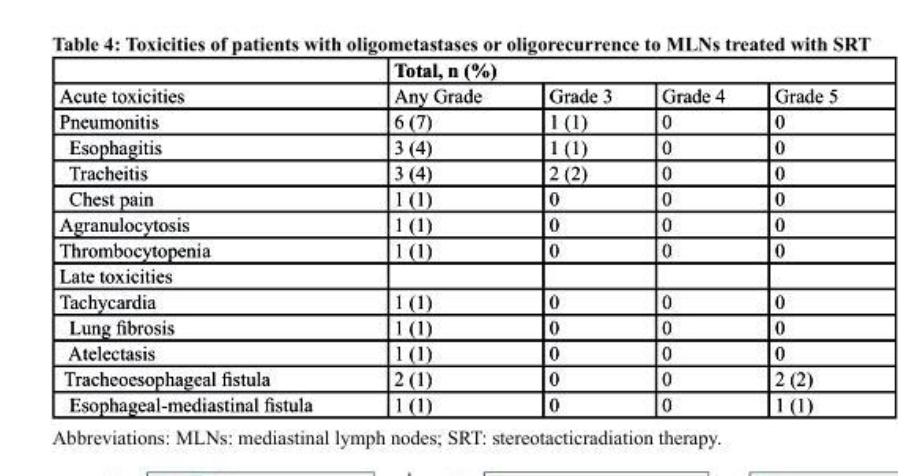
<table><thead><tr><td rowspan="2">Acute toxicities</td><td colspan="4">total, n (%)</td></tr><tr><td>Any Grade</td><td>Grade 3</td><td>Grade 4</td><td>Grade 5</td></tr></thead><tbody><tr><td>Pneumonitis</td><td>6 (7)</td><td>1 (1)</td><td>0</td><td>0</td></tr><tr><td>Esophagitis</td><td>3 (4)</td><td>1 (1)</td><td>0</td><td>0</td></tr><tr><td>Tracheitis</td><td>3 (4)</td><td>2 (2)</td><td>0</td><td>0</td></tr><tr><td>Chest pain</td><td>1 (1)</td><td>0</td><td>0</td><td>0</td></tr><tr><td>Agranulocytosis</td><td>1 (1)</td><td>0</td><td>0</td><td>0</td></tr><tr><td>Thrombocytopenia</td><td>1 (1)</td><td>0</td><td>0</td><td>0</td></tr><tr><td colspan="5">Late toxicities</td></tr><tr><td>Tachycardia</td><td>1 (1)</td><td>0</td><td>0</td><td>0</td></tr><tr><td>Lung fibrosis</td><td>1 (1)</td><td>0</td><td>0</td><td>0</td></tr><tr><td>Atelectasis</td><td>1 (1)</td><td>0</td><td>0</td><td>0</td></tr><tr><td>Tracheoesophageal fistula</td><td>2 (1)</td><td>0</td><td>0</td><td>2 (2)</td></tr><tr><td>Esophageal-mediastinal fistula</td><td>1 (1)</td><td>0</td><td>0</td><td>1 (1)</td></tr></tbody></table>